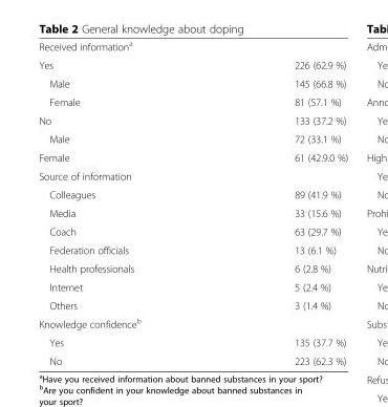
<table><tbody><tr><td colspan="2">Received information<sup>a</sup></td></tr><tr><td>Yes</td><td>226 (62.9 %)</td></tr><tr><td>Male</td><td>145 (66.8 %)</td></tr><tr><td>Female</td><td>81 (57.1 %)</td></tr><tr><td>No</td><td>133 (37.2 %)</td></tr><tr><td>Male</td><td>72 (33.1 %)</td></tr><tr><td>Female</td><td>61 (42.9.0 %)</td></tr><tr><td colspan="2">Source of information</td></tr><tr><td>Colleagues</td><td>89 (41.9 %)</td></tr><tr><td>Media</td><td>33 (15.6 %)</td></tr><tr><td>Coach</td><td>63 (29.7 %)</td></tr><tr><td>Federation officials</td><td>13 (6.1 %)</td></tr><tr><td>Health professionals</td><td>6 (2.8 %)</td></tr><tr><td>Internet</td><td>5 (2.4 %)</td></tr><tr><td>Others</td><td>3 (1.4 %)</td></tr><tr><td colspan="2">Knowledge confidence<sup>b</sup></td></tr><tr><td>Yes</td><td>135 (37.7 %)</td></tr><tr><td>No</td><td>223 (62.3 %)</td></tr></tbody></table>